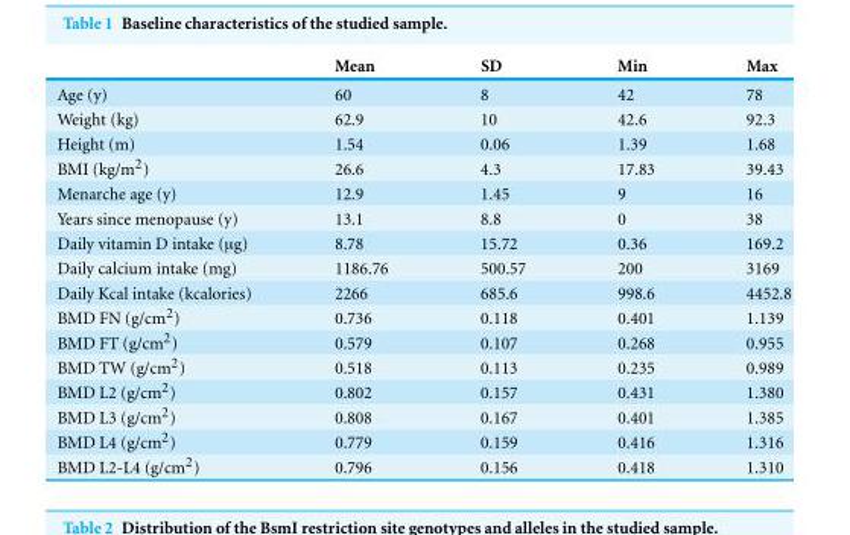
<table><thead><tr><td></td><td>Mean</td><td>SD</td><td>Min</td><td>Max</td></tr></thead><tbody><tr><td>Age (y)</td><td>60</td><td>8</td><td>42</td><td>78</td></tr><tr><td>Weight (kg)</td><td>62.9</td><td>10</td><td>42.6</td><td>92.3</td></tr><tr><td>Height (m)</td><td>1.54</td><td>0.06</td><td>1.39</td><td>1.68</td></tr><tr><td>BMI (kg/m<sup>2</sup>)</td><td>26.6</td><td>4.3</td><td>17.83</td><td>39.43</td></tr><tr><td>Menarche age (y)</td><td>12.9</td><td>1.45</td><td>9</td><td>16</td></tr><tr><td>Years since menopause (y)</td><td>13.1</td><td>8.8</td><td>0</td><td>38</td></tr><tr><td>Daily vitamin D intake (µg)</td><td>8.78</td><td>15.72</td><td>0.36</td><td>169.2</td></tr><tr><td>Daily calcium intake (mg)</td><td>1186.76</td><td>500.57</td><td>200</td><td>3169</td></tr><tr><td>Daily Kcal intake (kcalories)</td><td>2266</td><td>685.6</td><td>998.6</td><td>4452.8</td></tr><tr><td>BMD FN (g/cm<sup>2</sup>)</td><td>0.736</td><td>0.118</td><td>0.401</td><td>1.139</td></tr><tr><td>BMD FT (g/cm<sup>2</sup>)</td><td>0.579</td><td>0.107</td><td>0.268</td><td>0.955</td></tr><tr><td>BMD TW (g/cm<sup>2</sup>)</td><td>0.518</td><td>0.113</td><td>0.235</td><td>0.989</td></tr><tr><td>BMD L2 (g/cm<sup>2</sup>)</td><td>0.802</td><td>0.157</td><td>0.431</td><td>1.380</td></tr><tr><td>BMD L3 (g/cm<sup>2</sup>)</td><td>0.808</td><td>0.167</td><td>0.401</td><td>1.385</td></tr><tr><td>BMD L4 (g/cm<sup>2</sup>)</td><td>0.779</td><td>0.159</td><td>0.416</td><td>1.316</td></tr><tr><td>BMD L2-L4 (g/cm<sup>2</sup>)</td><td>0.796</td><td>0.156</td><td>0.418</td><td>1.310</td></tr></tbody></table>